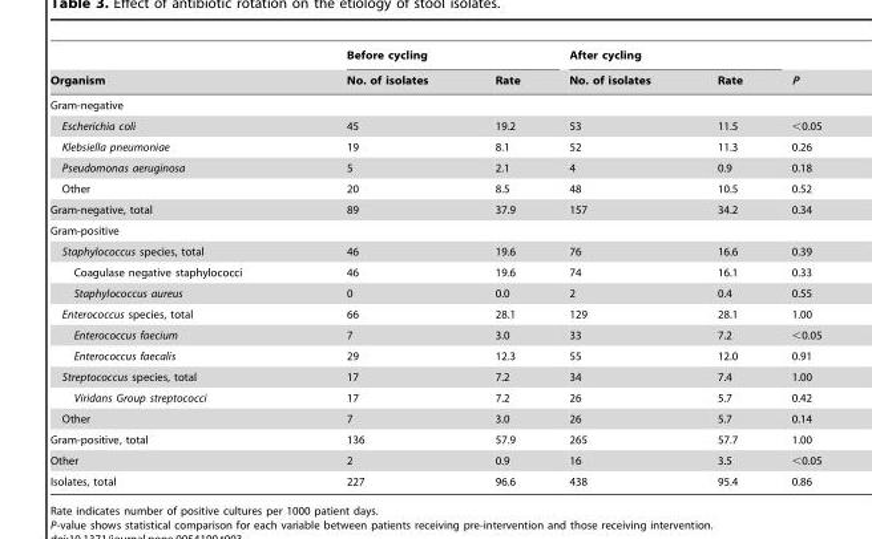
<table><thead><tr><td rowspan="2">Organism</td><td colspan="2">Before cycling</td><td colspan="2">After cycling</td><td rowspan="2">P</td></tr><tr><td>No. of isolates</td><td>Rate</td><td>No. of isolates</td><td>Rate</td></tr></thead><tbody><tr><td colspan="6">Gram-negative</td></tr><tr><td>Escherichia coli</td><td>45</td><td>19.2</td><td>53</td><td>11.5</td><td>&lt;0.05</td></tr><tr><td>Klebsiella pneumoniae</td><td>19</td><td>8.1</td><td>52</td><td>11.3</td><td>0.26</td></tr><tr><td>Pseudomonas aeruginosa</td><td>5</td><td>2.1</td><td>4</td><td>0.9</td><td>0.18</td></tr><tr><td>Other</td><td>20</td><td>8.5</td><td>48</td><td>10.5</td><td>0.52</td></tr><tr><td>Gram-negative, total</td><td>89</td><td>37.9</td><td>157</td><td>34.2</td><td>0.34</td></tr><tr><td colspan="6">Gram-positive</td></tr><tr><td>Staphylococcus species, total</td><td>46</td><td>19.6</td><td>76</td><td>16.6</td><td>0.39</td></tr><tr><td>Coagulase negative staphylococci</td><td>46</td><td>19.6</td><td>74</td><td>16.1</td><td>0.33</td></tr><tr><td>Staphylococcus aureus</td><td>0</td><td>0.0</td><td>2</td><td>0.4</td><td>0.55</td></tr><tr><td>Enterococcus species, total</td><td>66</td><td>28.1</td><td>129</td><td>28.1</td><td>1.00</td></tr><tr><td>Enterococcus faecium</td><td>7</td><td>3.0</td><td>33</td><td>7.2</td><td>&lt;0.05</td></tr><tr><td>Enterococcus faecalis</td><td>29</td><td>12.3</td><td>55</td><td>12.0</td><td>0.91</td></tr><tr><td>Streptococcus species, total</td><td>17</td><td>7.2</td><td>34</td><td>7.4</td><td>1.00</td></tr><tr><td>Viridans Group streptococci</td><td>17</td><td>7.2</td><td>26</td><td>5.7</td><td>0.42</td></tr><tr><td>Other</td><td>7</td><td>3.0</td><td>26</td><td>5.7</td><td>0.14</td></tr><tr><td>Gram-positive, total</td><td>136</td><td>57.9</td><td>265</td><td>57.7</td><td>1.00</td></tr><tr><td>Other</td><td>2</td><td>0.9</td><td>16</td><td>3.5</td><td>&lt;0.05</td></tr><tr><td>Isolates, total</td><td>227</td><td>96.6</td><td>438</td><td>95.4</td><td>0.86</td></tr></tbody></table>